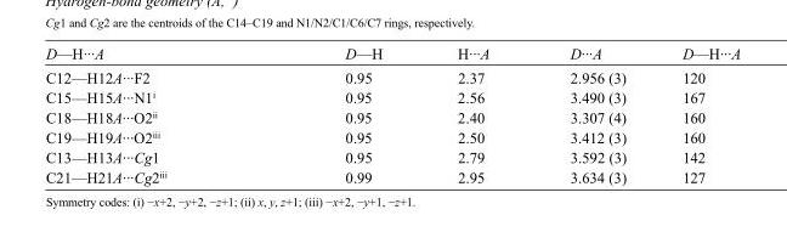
<table><tbody><tr><td>D—H···A</td><td>D—H</td><td>H···A</td><td>D···A</td><td>D—H···A</td></tr><tr><td>C12—H12A···F2</td><td>0.95</td><td>2.37</td><td>2.956 (3)</td><td>120</td></tr><tr><td>C15—H15A···N1<sup>i</sup></td><td>0.95</td><td>2.56</td><td>3.490 (3)</td><td>167</td></tr><tr><td>C18—H18A···O2<sup>ii</sup></td><td>0.95</td><td>2.40</td><td>3.307 (4)</td><td>160</td></tr><tr><td>C19—H19A···O2<sup>iii</sup></td><td>0.95</td><td>2.50</td><td>3.412 (3)</td><td>160</td></tr><tr><td>C13—H13A···Cg1</td><td>0.95</td><td>2.79</td><td>3.592 (3)</td><td>142</td></tr><tr><td>C21—H21A···Cg2<sup>iii</sup></td><td>0.99</td><td>2.95</td><td>3.634 (3)</td><td>127</td></tr></tbody></table>